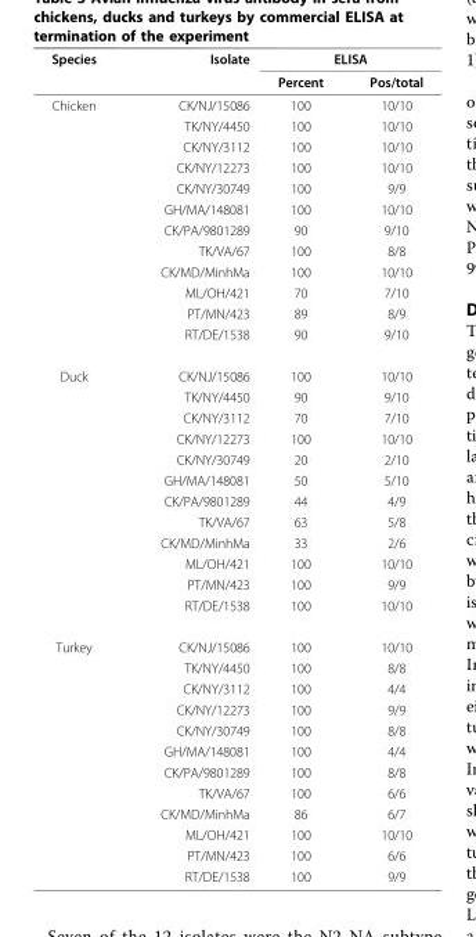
<table><thead><tr><td rowspan="2">Species</td><td rowspan="2">Isolate</td><td colspan="2">ELISA</td></tr><tr><td>Percent</td><td>Pos/total</td></tr></thead><tbody><tr><td rowspan="12">Chicken</td><td>CK/NJ/15086</td><td>100</td><td>10/10</td></tr><tr><td>TK/NY/4450</td><td>100</td><td>10/10</td></tr><tr><td>CK/NY/3112</td><td>100</td><td>10/10</td></tr><tr><td>CK/NY/12273</td><td>100</td><td>10/10</td></tr><tr><td>CK/NY/30749</td><td>100</td><td>9/9</td></tr><tr><td>GH/MA/148081</td><td>100</td><td>10/10</td></tr><tr><td>CK/PA/9801289</td><td>90</td><td>9/10</td></tr><tr><td>TK/VA/67</td><td>100</td><td>8/8</td></tr><tr><td>CK/MD/MinhMa</td><td>100</td><td>10/10</td></tr><tr><td>ML/OH/421</td><td>70</td><td>7/10</td></tr><tr><td>PT/MN/423</td><td>89</td><td>8/9</td></tr><tr><td>RT/DE/1538</td><td>90</td><td>9/10</td></tr><tr><td rowspan="12">Duck</td><td>CK/NJ/15086</td><td>100</td><td>10/10</td></tr><tr><td>TK/NY/4450</td><td>90</td><td>9/10</td></tr><tr><td>CK/NY/3112</td><td>70</td><td>7/10</td></tr><tr><td>CK/NY/12273</td><td>100</td><td>10/10</td></tr><tr><td>CK/NY/30749</td><td>20</td><td>2/10</td></tr><tr><td>GH/MA/148081</td><td>50</td><td>5/10</td></tr><tr><td>CK/PA/9801289</td><td>44</td><td>4/9</td></tr><tr><td>TK/VA/67</td><td>63</td><td>5/8</td></tr><tr><td>CK/MD/MinhMa</td><td>33</td><td>2/6</td></tr><tr><td>ML/OH/421</td><td>100</td><td>10/10</td></tr><tr><td>PT/MN/423</td><td>100</td><td>9/9</td></tr><tr><td>RT/DE/1538</td><td>100</td><td>10/10</td></tr><tr><td rowspan="12">Turkey</td><td>CK/NJ/15086</td><td>100</td><td>10/10</td></tr><tr><td>TK/NY/4450</td><td>100</td><td>8/8</td></tr><tr><td>CK/NY/3112</td><td>100</td><td>4/4</td></tr><tr><td>CK/NY/12273</td><td>100</td><td>9/9</td></tr><tr><td>CK/NY/30749</td><td>100</td><td>8/8</td></tr><tr><td>GH/MA/148081</td><td>100</td><td>4/4</td></tr><tr><td>CK/PA/9801289</td><td>100</td><td>8/8</td></tr><tr><td>TK/VA/67</td><td>100</td><td>6/6</td></tr><tr><td>CK/MD/MinhMa</td><td>86</td><td>6/7</td></tr><tr><td>ML/OH/421</td><td>100</td><td>10/10</td></tr><tr><td>PT/MN/423</td><td>100</td><td>6/6</td></tr><tr><td>RT/DE/1538</td><td>100</td><td>9/9</td></tr></tbody></table>